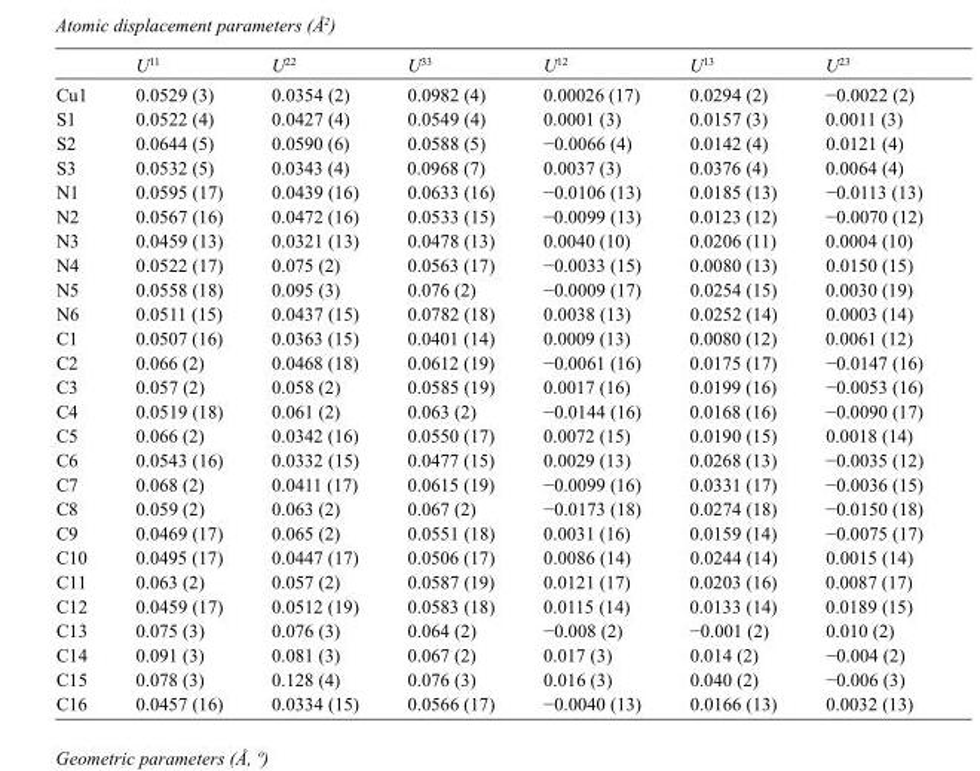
<table><thead><tr><td></td><td>U<sup>11</sup></td><td>U<sup>22</sup></td><td>U<sup>33</sup></td><td>U<sup>12</sup></td><td>U<sup>13</sup></td><td>U<sup>23</sup></td></tr></thead><tbody><tr><td>Cu1</td><td>0.0529 (3)</td><td>0.0354 (2)</td><td>0.0982 (4)</td><td>0.00026 (17)</td><td>0.0294 (2)</td><td>−0.0022 (2)</td></tr><tr><td>S1</td><td>0.0522 (4)</td><td>0.0427 (4)</td><td>0.0549 (4)</td><td>0.0001 (3)</td><td>0.0157 (3)</td><td>0.0011 (3)</td></tr><tr><td>S2</td><td>0.0644 (5)</td><td>0.0590 (6)</td><td>0.0588 (5)</td><td>−0.0066 (4)</td><td>0.0142 (4)</td><td>0.0121 (4)</td></tr><tr><td>S3</td><td>0.0532 (5)</td><td>0.0343 (4)</td><td>0.0968 (7)</td><td>0.0037 (3)</td><td>0.0376 (4)</td><td>0.0064 (4)</td></tr><tr><td>N1</td><td>0.0595 (17)</td><td>0.0439 (16)</td><td>0.0633 (16)</td><td>−0.0106 (13)</td><td>0.0185 (13)</td><td>−0.0113 (13)</td></tr><tr><td>N2</td><td>0.0567 (16)</td><td>0.0472 (16)</td><td>0.0533 (15)</td><td>−0.0099 (13)</td><td>0.0123 (12)</td><td>−0.0070 (12)</td></tr><tr><td>N3</td><td>0.0459 (13)</td><td>0.0321 (13)</td><td>0.0478 (13)</td><td>0.0040 (10)</td><td>0.0206 (11)</td><td>0.0004 (10)</td></tr><tr><td>N4</td><td>0.0522 (17)</td><td>0.075 (2)</td><td>0.0563 (17)</td><td>−0.0033 (15)</td><td>0.0080 (13)</td><td>0.0150 (15)</td></tr><tr><td>N5</td><td>0.0558 (18)</td><td>0.095 (3)</td><td>0.076 (2)</td><td>−0.0009 (17)</td><td>0.0254 (15)</td><td>0.0030 (19)</td></tr><tr><td>N6</td><td>0.0511 (15)</td><td>0.0437 (15)</td><td>0.0782 (18)</td><td>0.0038 (13)</td><td>0.0252 (14)</td><td>0.0003 (14)</td></tr><tr><td>C1</td><td>0.0507 (16)</td><td>0.0363 (15)</td><td>0.0401 (14)</td><td>0.0009 (13)</td><td>0.0080 (12)</td><td>0.0061 (12)</td></tr><tr><td>C2</td><td>0.066 (2)</td><td>0.0468 (18)</td><td>0.0612 (19)</td><td>−0.0061 (16)</td><td>0.0175 (17)</td><td>−0.0147 (16)</td></tr><tr><td>C3</td><td>0.057 (2)</td><td>0.058 (2)</td><td>0.0585 (19)</td><td>0.0017 (16)</td><td>0.0199 (16)</td><td>−0.0053 (16)</td></tr><tr><td>C4</td><td>0.0519 (18)</td><td>0.061 (2)</td><td>0.063 (2)</td><td>−0.0144 (16)</td><td>0.0168 (16)</td><td>−0.0090 (17)</td></tr><tr><td>C5</td><td>0.066 (2)</td><td>0.0342 (16)</td><td>0.0550 (17)</td><td>0.0072 (15)</td><td>0.0190 (15)</td><td>0.0018 (14)</td></tr><tr><td>C6</td><td>0.0543 (16)</td><td>0.0332 (15)</td><td>0.0477 (15)</td><td>0.0029 (13)</td><td>0.0268 (13)</td><td>−0.0035 (12)</td></tr><tr><td>C7</td><td>0.068 (2)</td><td>0.0411 (17)</td><td>0.0615 (19)</td><td>−0.0099 (16)</td><td>0.0331 (17)</td><td>−0.0036 (15)</td></tr><tr><td>C8</td><td>0.059 (2)</td><td>0.063 (2)</td><td>0.067 (2)</td><td>−0.0173 (18)</td><td>0.0274 (18)</td><td>−0.0150 (18)</td></tr><tr><td>C9</td><td>0.0469 (17)</td><td>0.065 (2)</td><td>0.0551 (18)</td><td>0.0031 (16)</td><td>0.0159 (14)</td><td>−0.0075 (17)</td></tr><tr><td>C10</td><td>0.0495 (17)</td><td>0.0447 (17)</td><td>0.0506 (17)</td><td>0.0086 (14)</td><td>0.0244 (14)</td><td>0.0015 (14)</td></tr><tr><td>C11</td><td>0.063 (2)</td><td>0.057 (2)</td><td>0.0587 (19)</td><td>0.0121 (17)</td><td>0.0203 (16)</td><td>0.0087 (17)</td></tr><tr><td>C12</td><td>0.0459 (17)</td><td>0.0512 (19)</td><td>0.0583 (18)</td><td>0.0115 (14)</td><td>0.0133 (14)</td><td>0.0189 (15)</td></tr><tr><td>C13</td><td>0.075 (3)</td><td>0.076 (3)</td><td>0.064 (2)</td><td>−0.008 (2)</td><td>−0.001 (2)</td><td>0.010 (2)</td></tr><tr><td>C14</td><td>0.091 (3)</td><td>0.081 (3)</td><td>0.067 (2)</td><td>0.017 (3)</td><td>0.014 (2)</td><td>−0.004 (2)</td></tr><tr><td>C15</td><td>0.078 (3)</td><td>0.128 (4)</td><td>0.076 (3)</td><td>0.016 (3)</td><td>0.040 (2)</td><td>−0.006 (3)</td></tr><tr><td>C16</td><td>0.0457 (16)</td><td>0.0334 (15)</td><td>0.0566 (17)</td><td>−0.0040 (13)</td><td>0.0166 (13)</td><td>0.0032 (13)</td></tr></tbody></table>